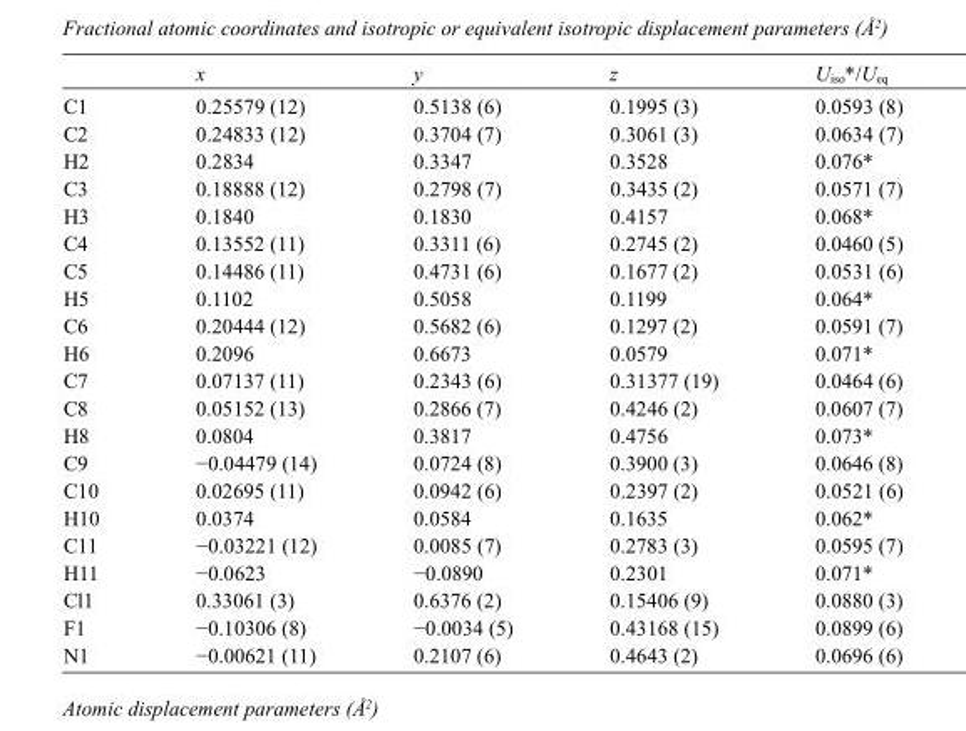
<table><thead><tr><td></td><td>x</td><td>y</td><td>z</td><td>U<sub>iso</sub>*/U<sub>eq</sub></td></tr></thead><tbody><tr><td>C1</td><td>0.25579 (12)</td><td>0.5138 (6)</td><td>0.1995 (3)</td><td>0.0593 (8)</td></tr><tr><td>C2</td><td>0.24833 (12)</td><td>0.3704 (7)</td><td>0.3061 (3)</td><td>0.0634 (7)</td></tr><tr><td>H2</td><td>0.2834</td><td>0.3347</td><td>0.3528</td><td>0.076*</td></tr><tr><td>C3</td><td>0.18888 (12)</td><td>0.2798 (7)</td><td>0.3435 (2)</td><td>0.0571 (7)</td></tr><tr><td>H3</td><td>0.1840</td><td>0.1830</td><td>0.4157</td><td>0.068*</td></tr><tr><td>C4</td><td>0.13552 (11)</td><td>0.3311 (6)</td><td>0.2745 (2)</td><td>0.0460 (5)</td></tr><tr><td>C5</td><td>0.14486 (11)</td><td>0.4731 (6)</td><td>0.1677 (2)</td><td>0.0531 (6)</td></tr><tr><td>H5</td><td>0.1102</td><td>0.5058</td><td>0.1199</td><td>0.064*</td></tr><tr><td>C6</td><td>0.20444 (12)</td><td>0.5682 (6)</td><td>0.1297 (2)</td><td>0.0591 (7)</td></tr><tr><td>H6</td><td>0.2096</td><td>0.6673</td><td>0.0579</td><td>0.071*</td></tr><tr><td>C7</td><td>0.07137 (11)</td><td>0.2343 (6)</td><td>0.31377 (19)</td><td>0.0464 (6)</td></tr><tr><td>C8</td><td>0.05152 (13)</td><td>0.2866 (7)</td><td>0.4246 (2)</td><td>0.0607 (7)</td></tr><tr><td>H8</td><td>0.0804</td><td>0.3817</td><td>0.4756</td><td>0.073*</td></tr><tr><td>C9</td><td>−0.04479 (14)</td><td>0.0724 (8)</td><td>0.3900 (3)</td><td>0.0646 (8)</td></tr><tr><td>C10</td><td>0.02695 (11)</td><td>0.0942 (6)</td><td>0.2397 (2)</td><td>0.0521 (6)</td></tr><tr><td>H10</td><td>0.0374</td><td>0.0584</td><td>0.1635</td><td>0.062*</td></tr><tr><td>C11</td><td>−0.03221 (12)</td><td>0.0085 (7)</td><td>0.2783 (3)</td><td>0.0595 (7)</td></tr><tr><td>H11</td><td>−0.0623</td><td>−0.0890</td><td>0.2301</td><td>0.071*</td></tr><tr><td>Cl1</td><td>0.33061 (3)</td><td>0.6376 (2)</td><td>0.15406 (9)</td><td>0.0880 (3)</td></tr><tr><td>F1</td><td>−0.10306 (8)</td><td>−0.0034 (5)</td><td>0.43168 (15)</td><td>0.0899 (6)</td></tr><tr><td>N1</td><td>−0.00621 (11)</td><td>0.2107 (6)</td><td>0.4643 (2)</td><td>0.0696 (6)</td></tr></tbody></table>